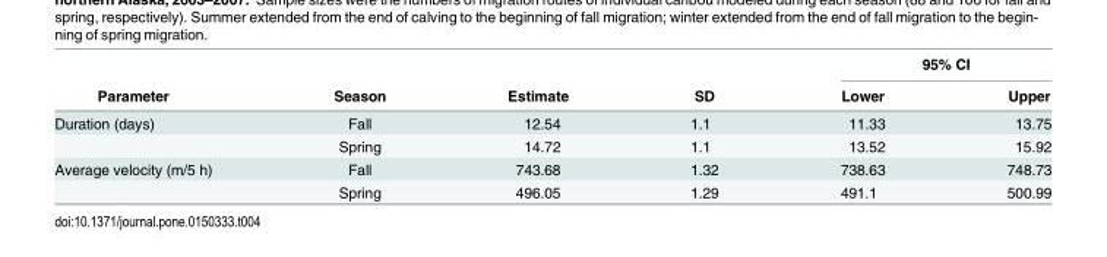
<table><thead><tr><td rowspan="2">Parameter</td><td rowspan="2">Season</td><td rowspan="2">Estimate</td><td rowspan="2">SD</td><td colspan="2">95% CI</td></tr><tr><td>Lower</td><td>Upper</td></tr></thead><tbody><tr><td rowspan="2">Duration (days)</td><td>Fall</td><td>12.54</td><td>1.1</td><td>11.33</td><td>13.75</td></tr><tr><td>Spring</td><td>14.72</td><td>1.1</td><td>13.52</td><td>15.92</td></tr><tr><td rowspan="2">Average velocity (m/5 h)</td><td>Fall</td><td>743.68</td><td>1.32</td><td>738.63</td><td>748.73</td></tr><tr><td>Spring</td><td>496.05</td><td>1.29</td><td>491.1</td><td>500.99</td></tr></tbody></table>